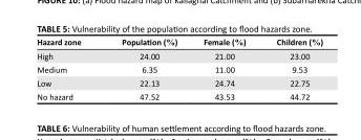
<table><thead><tr><td>Hazard zone</td><td>Population (%)</td><td>Female (%)</td><td>Children (%)</td></tr></thead><tbody><tr><td>High</td><td>24.00</td><td>21.00</td><td>23.00</td></tr><tr><td>Medium</td><td>6.35</td><td>11.00</td><td>9.53</td></tr><tr><td>Low</td><td>22.13</td><td>24.74</td><td>22.75</td></tr><tr><td>No hazard</td><td>47.52</td><td>43.53</td><td>44.72</td></tr></tbody></table>